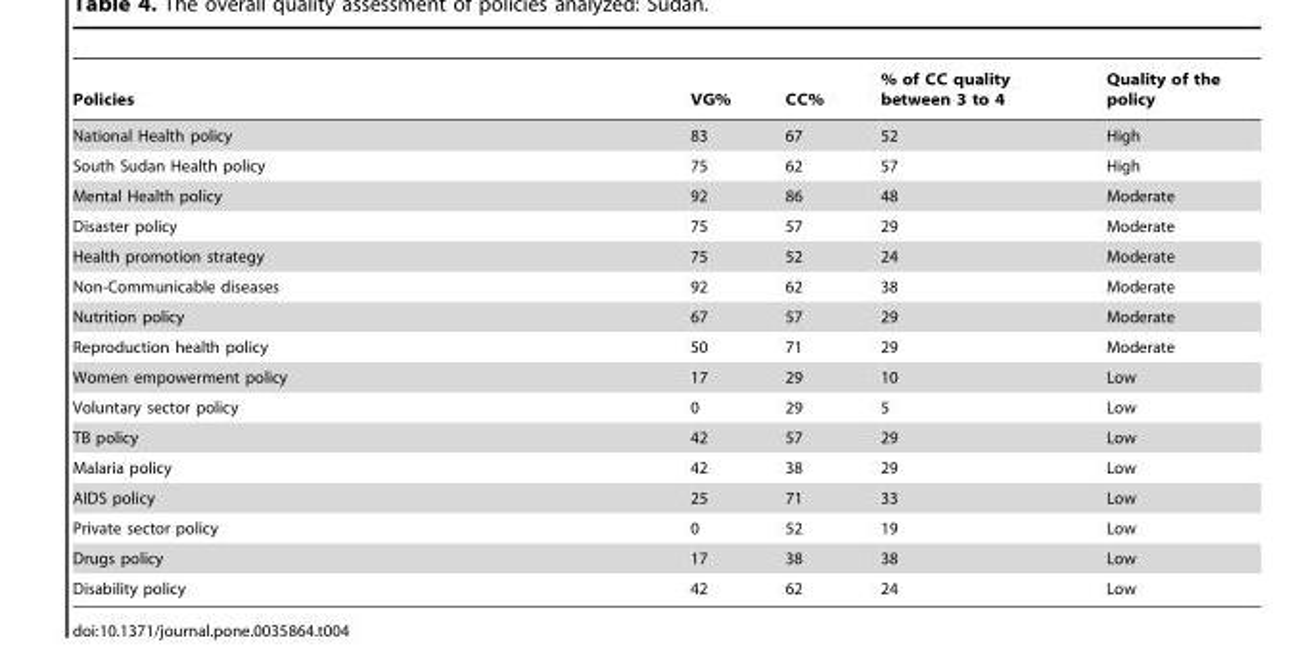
<table><thead><tr><td>Policies</td><td>VG%</td><td>CC%</td><td>% of CC quality between 3 to 4</td><td>Quality of the policy</td></tr></thead><tbody><tr><td>National Health policy</td><td>83</td><td>67</td><td>52</td><td>High</td></tr><tr><td>South Sudan Health policy</td><td>75</td><td>62</td><td>57</td><td>High</td></tr><tr><td>Mental Health policy</td><td>92</td><td>86</td><td>48</td><td>Moderate</td></tr><tr><td>Disaster policy</td><td>75</td><td>57</td><td>29</td><td>Moderate</td></tr><tr><td>Health promotion strategy</td><td>75</td><td>52</td><td>24</td><td>Moderate</td></tr><tr><td>Non-Communicable diseases</td><td>92</td><td>62</td><td>38</td><td>Moderate</td></tr><tr><td>Nutrition policy</td><td>67</td><td>57</td><td>29</td><td>Moderate</td></tr><tr><td>Reproduction health policy</td><td>50</td><td>71</td><td>29</td><td>Moderate</td></tr><tr><td>Women empowerment policy</td><td>17</td><td>29</td><td>10</td><td>Low</td></tr><tr><td>Voluntary sector policy</td><td>0</td><td>29</td><td>5</td><td>Low</td></tr><tr><td>TB policy</td><td>42</td><td>57</td><td>29</td><td>Low</td></tr><tr><td>Malaria policy</td><td>42</td><td>38</td><td>29</td><td>Low</td></tr><tr><td>AIDS policy</td><td>25</td><td>71</td><td>33</td><td>Low</td></tr><tr><td>Private sector policy</td><td>0</td><td>52</td><td>19</td><td>Low</td></tr><tr><td>Drugs policy</td><td>17</td><td>38</td><td>38</td><td>Low</td></tr><tr><td>Disability policy</td><td>42</td><td>62</td><td>24</td><td>Low</td></tr></tbody></table>